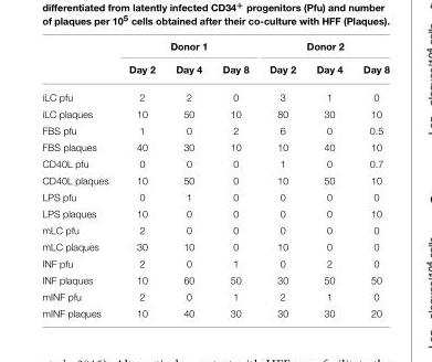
<table><thead><tr><td rowspan="2"></td><td colspan="3">Donor 1</td><td colspan="3">Donor 2</td></tr><tr><td>Day 2</td><td>Day 4</td><td>Day 8</td><td>Day 2</td><td>Day 4</td><td>Day 8</td></tr></thead><tbody><tr><td>iLC pfu</td><td>2</td><td>2</td><td>0</td><td>3</td><td>1</td><td>0</td></tr><tr><td>iLC plaques</td><td>10</td><td>50</td><td>10</td><td>80</td><td>30</td><td>10</td></tr><tr><td>FBS pfu</td><td>1</td><td>0</td><td>2</td><td>6</td><td>0</td><td>0.5</td></tr><tr><td>FBS plaques</td><td>40</td><td>30</td><td>10</td><td>10</td><td>40</td><td>10</td></tr><tr><td>CD40L pfu</td><td>0</td><td>0</td><td>0</td><td>1</td><td>0</td><td>0.7</td></tr><tr><td>CD40L plaques</td><td>10</td><td>50</td><td>0</td><td>10</td><td>50</td><td>10</td></tr><tr><td>LPS pfu</td><td>0</td><td>1</td><td>0</td><td>0</td><td>0</td><td>0</td></tr><tr><td>LPS plaques</td><td>10</td><td>0</td><td>0</td><td>0</td><td>0</td><td>10</td></tr><tr><td>mLC pfu</td><td>2</td><td>0</td><td>0</td><td>0</td><td>0</td><td>0</td></tr><tr><td>mLC plaques</td><td>30</td><td>10</td><td>0</td><td>10</td><td>0</td><td>0</td></tr><tr><td>INF pfu</td><td>2</td><td>0</td><td>1</td><td>0</td><td>2</td><td>0</td></tr><tr><td>INF plaques</td><td>10</td><td>60</td><td>50</td><td>30</td><td>50</td><td>50</td></tr><tr><td>mINF pfu</td><td>2</td><td>0</td><td>1</td><td>2</td><td>1</td><td>0</td></tr><tr><td>mINF plaques</td><td>10</td><td>40</td><td>30</td><td>30</td><td>30</td><td>20</td></tr></tbody></table>